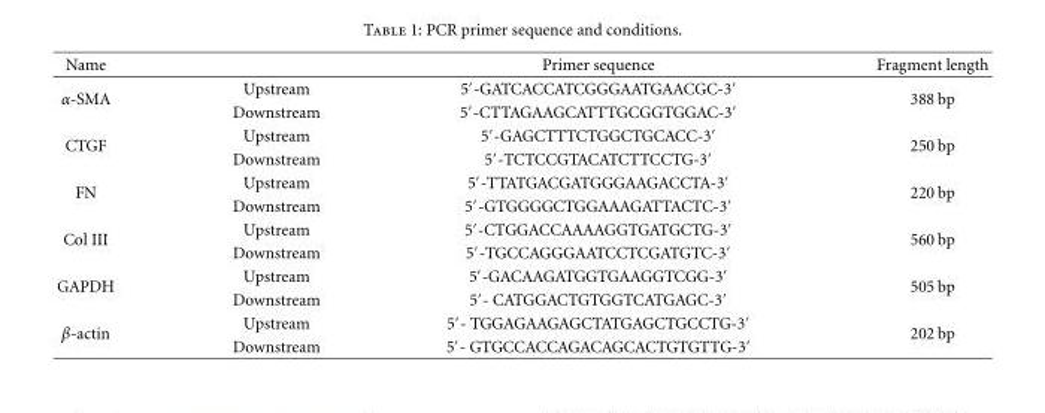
<table><thead><tr><td>Name</td><td></td><td>Primer sequence</td><td>Fragment length</td></tr></thead><tbody><tr><td rowspan="2">α-SMA</td><td>Upstream</td><td>5′-GATCACCATCGGGAATGAACGC-3′</td><td rowspan="2">388 bp</td></tr><tr><td>Downstream</td><td>5′-CTTAGAAGCATTTGCGGTGGAC-3′</td></tr><tr><td rowspan="2">CTGF</td><td>Upstream</td><td>5′-GAGCTTTCTGGCTGCACC-3′</td><td rowspan="2">250 bp</td></tr><tr><td>Downstream</td><td>5′-TCTCCGTACATCTTCCTG-3′</td></tr><tr><td rowspan="2">FN</td><td>Upstream</td><td>5′-TTATGACGATGGGAAGACCTA-3′</td><td rowspan="2">220 bp</td></tr><tr><td>Downstream</td><td>5′-GTGGGGCTGGAAAGATTACTC-3′</td></tr><tr><td rowspan="2">Col III</td><td>Upstream</td><td>5′-CTGGACCAAAAGGTGATGCTG-3′</td><td rowspan="2">560 bp</td></tr><tr><td>Downstream</td><td>5′-TGCCAGGGAATCCTCGATGTC-3′</td></tr><tr><td rowspan="2">GAPDH</td><td>Upstream</td><td>5′-GACAAGATGGTGAAGGTCGG-3′</td><td rowspan="2">505 bp</td></tr><tr><td>Downstream</td><td>5′- CATGGACTGTGGTCATGAGC-3′</td></tr><tr><td rowspan="2">β-actin</td><td>Upstream</td><td>5′- TGGAGAAGAGCTATGAGCTGCCTG-3′</td><td rowspan="2">202 bp</td></tr><tr><td>Downstream</td><td>5′- GTGCCACCAGACAGCACTGTGTTG-3′</td></tr></tbody></table>